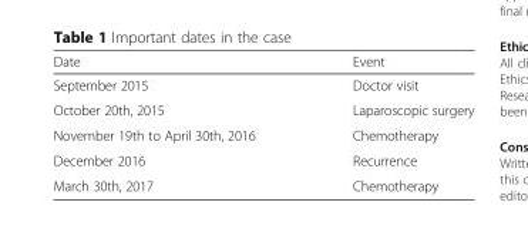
<table><thead><tr><td>Date</td><td>Event</td></tr></thead><tbody><tr><td>September 2015</td><td>Doctor visit</td></tr><tr><td>October 20th, 2015</td><td>Laparoscopic surgery</td></tr><tr><td>November 19th to April 30th, 2016</td><td>Chemotherapy</td></tr><tr><td>December 2016</td><td>Recurrence</td></tr><tr><td>March 30th, 2017</td><td>Chemotherapy</td></tr></tbody></table>